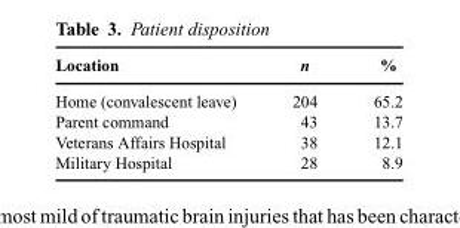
<table><thead><tr><td>Location</td><td>n</td><td>%</td></tr></thead><tbody><tr><td>Home (convalescent leave)</td><td>204</td><td>65.2</td></tr><tr><td>Parent command</td><td>43</td><td>13.7</td></tr><tr><td>Veterans Affairs Hospital</td><td>38</td><td>12.1</td></tr><tr><td>Military Hospital</td><td>28</td><td>8.9</td></tr></tbody></table>